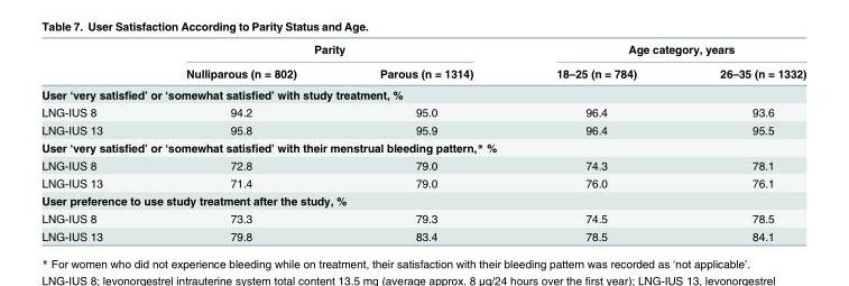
<table><thead><tr><td rowspan="2"></td><td colspan="2">Parity</td><td colspan="2">Age category, years</td></tr><tr><td>Nulliparous (n = 802)</td><td>Parous (n = 1314)</td><td>18–25 (n = 784)</td><td>26–35 (n = 1332)</td></tr></thead><tbody><tr><td colspan="5">User ‘very satisfied’ or ‘somewhat satisfied’ with study treatment, %</td></tr><tr><td>LNG-IUS 8</td><td>94.2</td><td>95.0</td><td>96.4</td><td>93.6</td></tr><tr><td>LNG-IUS 13</td><td>95.8</td><td>95.9</td><td>96.4</td><td>95.5</td></tr><tr><td colspan="5">User ‘very satisfied’ or ‘somewhat satisfied’ with their menstrual bleeding pattern,* %</td></tr><tr><td>LNG-IUS 8</td><td>72.8</td><td>79.0</td><td>74.3</td><td>78.1</td></tr><tr><td>LNG-IUS 13</td><td>71.4</td><td>79.0</td><td>76.0</td><td>76.1</td></tr><tr><td colspan="5">User preference to use study treatment after the study, %</td></tr><tr><td>LNG-IUS 8</td><td>73.3</td><td>79.3</td><td>74.5</td><td>78.5</td></tr><tr><td>LNG-IUS 13</td><td>79.8</td><td>83.4</td><td>78.5</td><td>84.1</td></tr></tbody></table>